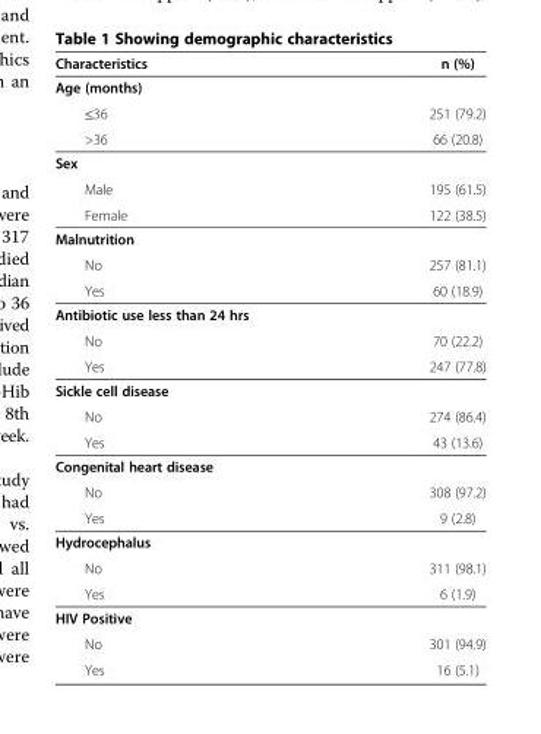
<table><thead><tr><td>Characteristics</td><td>n (%)</td></tr></thead><tbody><tr><td colspan="2">Age (months)</td></tr><tr><td>≤36</td><td>251 (79.2)</td></tr><tr><td>&gt;36</td><td>66 (20.8)</td></tr><tr><td colspan="2">Sex</td></tr><tr><td>Male</td><td>195 (61.5)</td></tr><tr><td>Female</td><td>122 (38.5)</td></tr><tr><td colspan="2">Malnutrition</td></tr><tr><td>No</td><td>257 (81.1)</td></tr><tr><td>Yes</td><td>60 (18.9)</td></tr><tr><td colspan="2">Antibiotic use less than 24 hrs</td></tr><tr><td>No</td><td>70 (22.2)</td></tr><tr><td>Yes</td><td>247 (77.8)</td></tr><tr><td colspan="2">Sickle cell disease</td></tr><tr><td>No</td><td>274 (86.4)</td></tr><tr><td>Yes</td><td>43 (13.6)</td></tr><tr><td colspan="2">Congenital heart disease</td></tr><tr><td>No</td><td>308 (97.2)</td></tr><tr><td>Yes</td><td>9 (2.8)</td></tr><tr><td colspan="2">Hydrocephalus</td></tr><tr><td>No</td><td>311 (98.1)</td></tr><tr><td>Yes</td><td>6 (1.9)</td></tr><tr><td colspan="2">HIV Positive</td></tr><tr><td>No</td><td>301 (94.9)</td></tr><tr><td>Yes</td><td>16 (5.1)</td></tr></tbody></table>